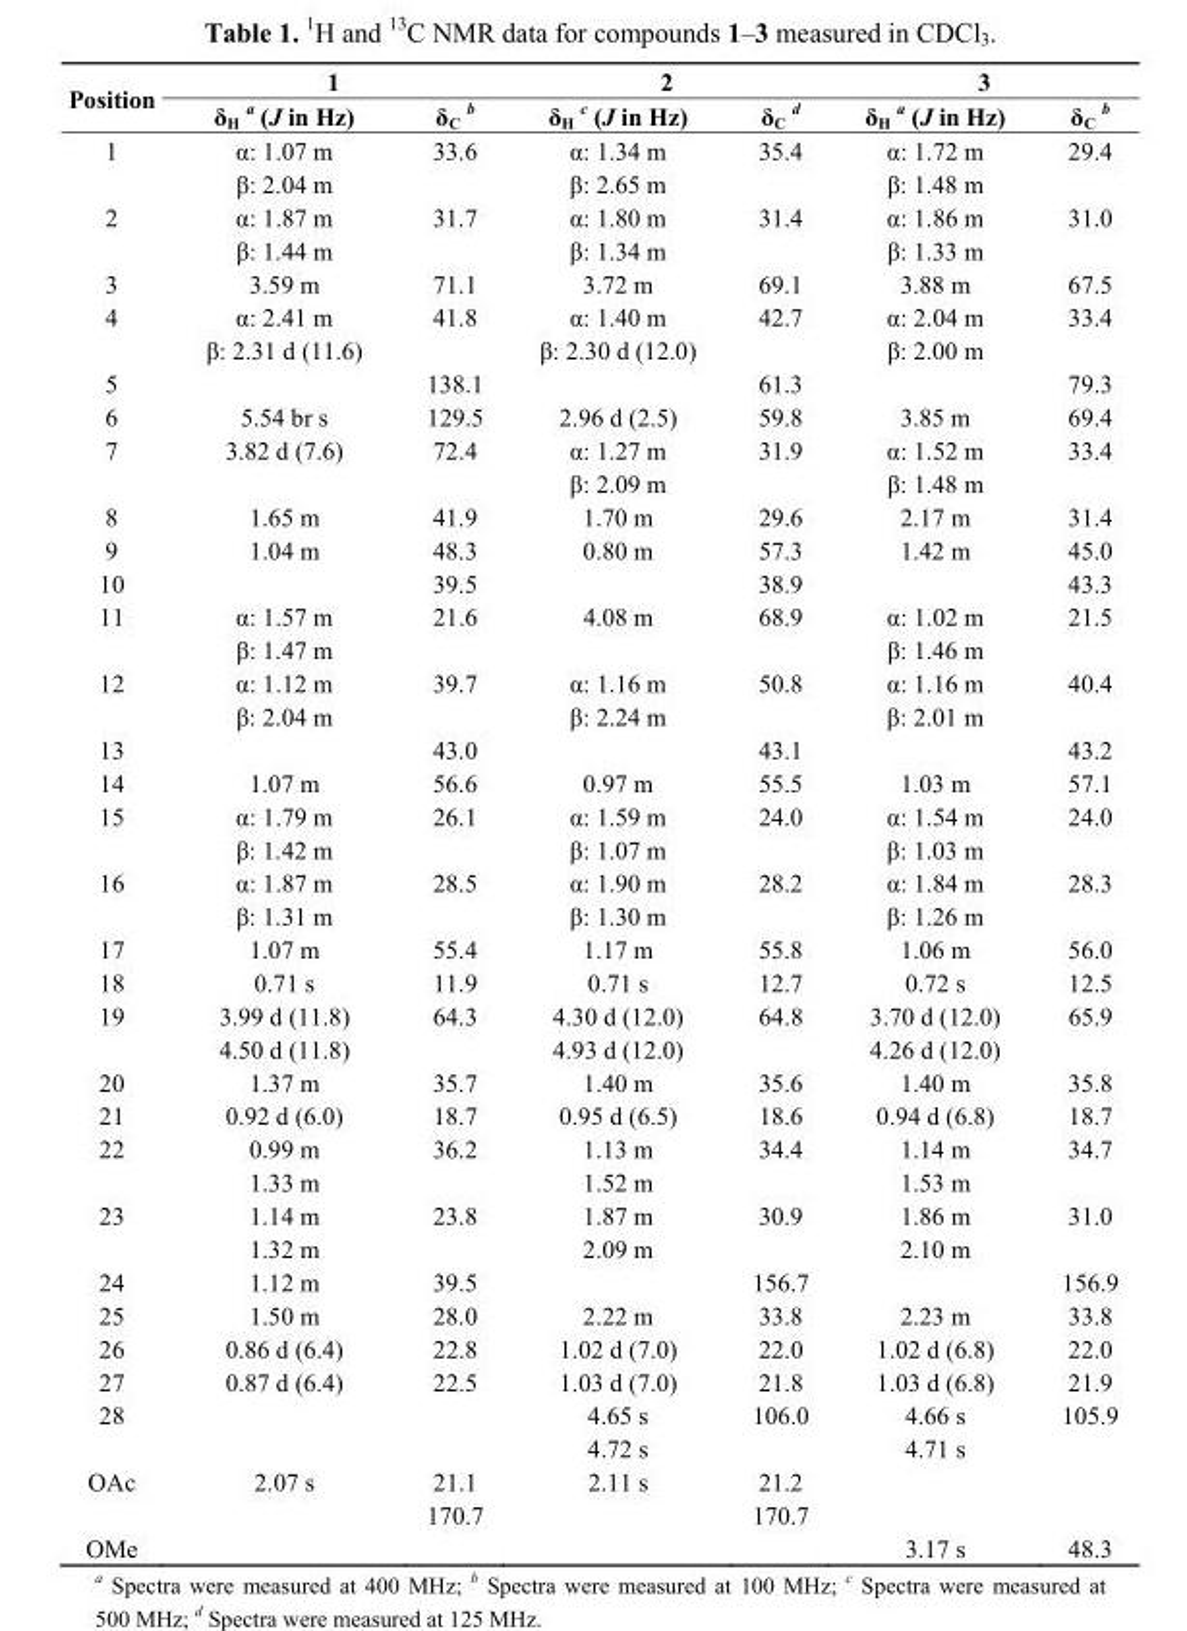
<table><thead><tr><td rowspan="2">Position</td><td colspan="2">1</td><td colspan="2">2</td><td colspan="2">3</td></tr><tr><td>δ<sub>H</sub> <sup>a</sup> (J in Hz)</td><td>δ<sub>C</sub> <sup>b</sup></td><td>δ<sub>H</sub> <sup>c</sup> (J in Hz)</td><td>δ<sub>C</sub> <sup>d</sup></td><td>δ<sub>H</sub> <sup>a</sup> (J in Hz)</td><td>δ<sub>C</sub> <sup>b</sup></td></tr></thead><tbody><tr><td rowspan="2">1</td><td>α: 1.07 m</td><td>33.6</td><td>α: 1.34 m</td><td>35.4</td><td>α: 1.72 m</td><td>29.4</td></tr><tr><td>β: 2.04 m</td><td></td><td>β: 2.65 m</td><td></td><td>β: 1.48 m</td><td></td></tr><tr><td rowspan="2">2</td><td>α: 1.87 m</td><td>31.7</td><td>α: 1.80 m</td><td>31.4</td><td>α: 1.86 m</td><td>31.0</td></tr><tr><td>β: 1.44 m</td><td></td><td>β: 1.34 m</td><td></td><td>β: 1.33 m</td><td></td></tr><tr><td>3</td><td>3.59 m</td><td>71.1</td><td>3.72 m</td><td>69.1</td><td>3.88 m</td><td>67.5</td></tr><tr><td rowspan="2">4</td><td>α: 2.41 m</td><td>41.8</td><td>α: 1.40 m</td><td>42.7</td><td>α: 2.04 m</td><td>33.4</td></tr><tr><td>β: 2.31 d (11.6)</td><td></td><td>β: 2.30 d (12.0)</td><td></td><td>β: 2.00 m</td><td></td></tr><tr><td>5</td><td></td><td>138.1</td><td></td><td>61.3</td><td></td><td>79.3</td></tr><tr><td>6</td><td>5.54 br s</td><td>129.5</td><td>2.96 d (2.5)</td><td>59.8</td><td>3.85 m</td><td>69.4</td></tr><tr><td rowspan="2">7</td><td>3.82 d (7.6)</td><td>72.4</td><td>α: 1.27 m</td><td>31.9</td><td>α: 1.52 m</td><td>33.4</td></tr><tr><td></td><td></td><td>β: 2.09 m</td><td></td><td>β: 1.48 m</td><td></td></tr><tr><td>8</td><td>1.65 m</td><td>41.9</td><td>1.70 m</td><td>29.6</td><td>2.17 m</td><td>31.4</td></tr><tr><td>9</td><td>1.04 m</td><td>48.3</td><td>0.80 m</td><td>57.3</td><td>1.42 m</td><td>45.0</td></tr><tr><td>10</td><td></td><td>39.5</td><td></td><td>38.9</td><td></td><td>43.3</td></tr><tr><td rowspan="2">11</td><td>α: 1.57 m</td><td>21.6</td><td>4.08 m</td><td>68.9</td><td>α: 1.02 m</td><td>21.5</td></tr><tr><td>β: 1.47 m</td><td></td><td></td><td></td><td>β: 1.46 m</td><td></td></tr><tr><td rowspan="2">12</td><td>α: 1.12 m</td><td>39.7</td><td>α: 1.16 m</td><td>50.8</td><td>α: 1.16 m</td><td>40.4</td></tr><tr><td>β: 2.04 m</td><td></td><td>β: 2.24 m</td><td></td><td>β: 2.01 m</td><td></td></tr><tr><td>13</td><td></td><td>43.0</td><td></td><td>43.1</td><td></td><td>43.2</td></tr><tr><td>14</td><td>1.07 m</td><td>56.6</td><td>0.97 m</td><td>55.5</td><td>1.03 m</td><td>57.1</td></tr><tr><td rowspan="2">15</td><td>α: 1.79 m</td><td>26.1</td><td>α: 1.59 m</td><td>24.0</td><td>α: 1.54 m</td><td>24.0</td></tr><tr><td>β: 1.42 m</td><td></td><td>β: 1.07 m</td><td></td><td>β: 1.03 m</td><td></td></tr><tr><td rowspan="2">16</td><td>α: 1.87 m</td><td>28.5</td><td>α: 1.90 m</td><td>28.2</td><td>α: 1.84 m</td><td>28.3</td></tr><tr><td>β: 1.31 m</td><td></td><td>β: 1.30 m</td><td></td><td>β: 1.26 m</td><td></td></tr><tr><td>17</td><td>1.07 m</td><td>55.4</td><td>1.17 m</td><td>55.8</td><td>1.06 m</td><td>56.0</td></tr><tr><td>18</td><td>0.71 s</td><td>11.9</td><td>0.71 s</td><td>12.7</td><td>0.72 s</td><td>12.5</td></tr><tr><td rowspan="2">19</td><td>3.99 d (11.8)</td><td>64.3</td><td>4.30 d (12.0)</td><td>64.8</td><td>3.70 d (12.0)</td><td>65.9</td></tr><tr><td>4.50 d (11.8)</td><td></td><td>4.93 d (12.0)</td><td></td><td>4.26 d (12.0)</td><td></td></tr><tr><td>20</td><td>1.37 m</td><td>35.7</td><td>1.40 m</td><td>35.6</td><td>1.40 m</td><td>35.8</td></tr><tr><td>21</td><td>0.92 d (6.0)</td><td>18.7</td><td>0.95 d (6.5)</td><td>18.6</td><td>0.94 d (6.8)</td><td>18.7</td></tr><tr><td rowspan="2">22</td><td>0.99 m</td><td>36.2</td><td>1.13 m</td><td>34.4</td><td>1.14 m</td><td>34.7</td></tr><tr><td>1.33 m</td><td></td><td>1.52 m</td><td></td><td>1.53 m</td><td></td></tr><tr><td rowspan="2">23</td><td>1.14 m</td><td>23.8</td><td>1.87 m</td><td>30.9</td><td>1.86 m</td><td>31.0</td></tr><tr><td>1.32 m</td><td></td><td>2.09 m</td><td></td><td>2.10 m</td><td></td></tr><tr><td>24</td><td>1.12 m</td><td>39.5</td><td></td><td>156.7</td><td></td><td>156.9</td></tr><tr><td>25</td><td>1.50 m</td><td>28.0</td><td>2.22 m</td><td>33.8</td><td>2.23 m</td><td>33.8</td></tr><tr><td>26</td><td>0.86 d (6.4)</td><td>22.8</td><td>1.02 d (7.0)</td><td>22.0</td><td>1.02 d (6.8)</td><td>22.0</td></tr><tr><td>27</td><td>0.87 d (6.4)</td><td>22.5</td><td>1.03 d (7.0)</td><td>21.8</td><td>1.03 d (6.8)</td><td>21.9</td></tr><tr><td rowspan="2">28</td><td></td><td></td><td>4.65 s</td><td>106.0</td><td>4.66 s</td><td>105.9</td></tr><tr><td></td><td></td><td>4.72 s</td><td></td><td>4.71 s</td><td></td></tr><tr><td rowspan="2">OAc</td><td>2.07 s</td><td>21.1</td><td>2.11 s</td><td>21.2</td><td></td><td></td></tr><tr><td></td><td>170.7</td><td></td><td>170.7</td><td></td><td></td></tr><tr><td>OMe</td><td></td><td></td><td></td><td></td><td>3.17 s</td><td>48.3</td></tr></tbody></table>